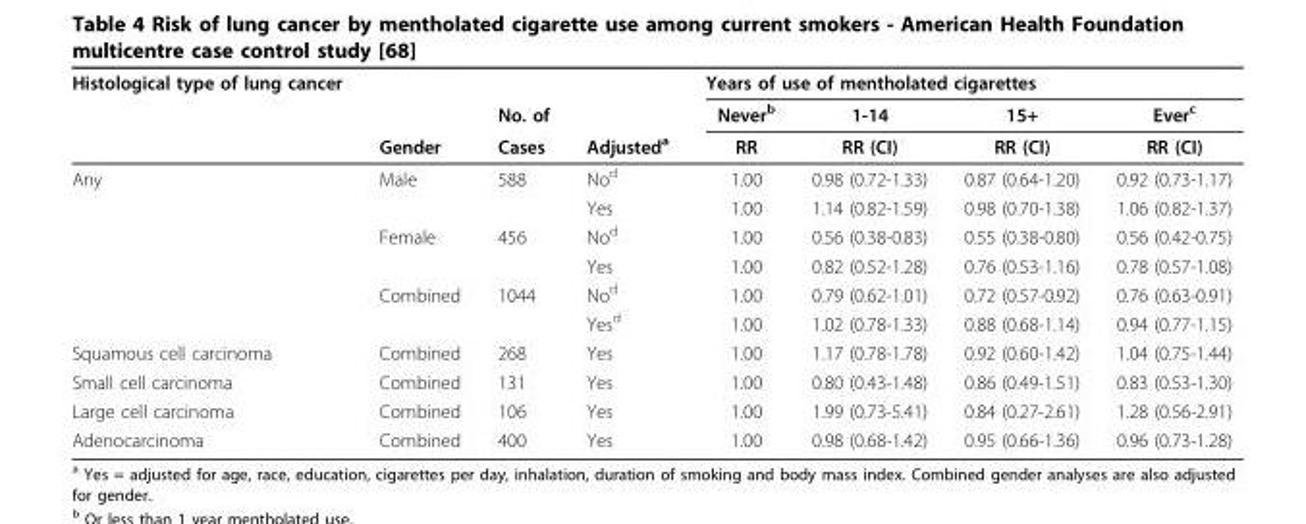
<table><thead><tr><td rowspan="3">Histological type of lung cancer</td><td rowspan="3">Gender</td><td rowspan="3">No. of Cases</td><td rowspan="3">Adjusted<sup>a</sup></td><td colspan="4">Years of use of mentholated cigarettes</td></tr><tr><td rowspan="2">Never<sup>b</sup> RR</td><td rowspan="2">1-14 RR (CI)</td><td rowspan="2">15+ RR (CI)</td><td rowspan="2">Ever<sup>c</sup> RR (CI)</td></tr><tr></tr></thead><tbody><tr><td rowspan="6">Any</td><td>Male</td><td>588</td><td>No<sup>d</sup></td><td>1.00</td><td>0.98 (0.72-1.33)</td><td>0.87 (0.64-1.20)</td><td>0.92 (0.73-1.17)</td></tr><tr><td></td><td></td><td>Yes</td><td>1.00</td><td>1.14 (0.82-1.59)</td><td>0.98 (0.70-1.38)</td><td>1.06 (0.82-1.37)</td></tr><tr><td>Female</td><td>456</td><td>No<sup>d</sup></td><td>1.00</td><td>0.56 (0.38-0.83)</td><td>0.55 (0.38-0.80)</td><td>0.56 (0.42-0.75)</td></tr><tr><td></td><td></td><td>Yes</td><td>1.00</td><td>0.82 (0.52-1.28)</td><td>0.76 (0.53-1.16)</td><td>0.78 (0.57-1.08)</td></tr><tr><td>Combined</td><td>1044</td><td>No<sup>d</sup></td><td>1.00</td><td>0.79 (0.62-1.01)</td><td>0.72 (0.57-0.92)</td><td>0.76 (0.63-0.91)</td></tr><tr><td></td><td></td><td>Yes<sup>d</sup></td><td>1.00</td><td>1.02 (0.78-1.33)</td><td>0.88 (0.68-1.14)</td><td>0.94 (0.77-1.15)</td></tr><tr><td>Squamous cell carcinoma</td><td>Combined</td><td>268</td><td>Yes</td><td>1.00</td><td>1.17 (0.78-1.78)</td><td>0.92 (0.60-1.42)</td><td>1.04 (0.75-1.44)</td></tr><tr><td>Small cell carcinoma</td><td>Combined</td><td>131</td><td>Yes</td><td>1.00</td><td>0.80 (0.43-1.48)</td><td>0.86 (0.49-1.51)</td><td>0.83 (0.53-1.30)</td></tr><tr><td>Large cell carcinoma</td><td>Combined</td><td>106</td><td>Yes</td><td>1.00</td><td>1.99 (0.73-5.41)</td><td>0.84 (0.27-2.61)</td><td>1.28 (0.56-2.91)</td></tr><tr><td>Adenocarcinoma</td><td>Combined</td><td>400</td><td>Yes</td><td>1.00</td><td>0.98 (0.68-1.42)</td><td>0.95 (0.66-1.36)</td><td>0.96 (0.73-1.28)</td></tr></tbody></table>